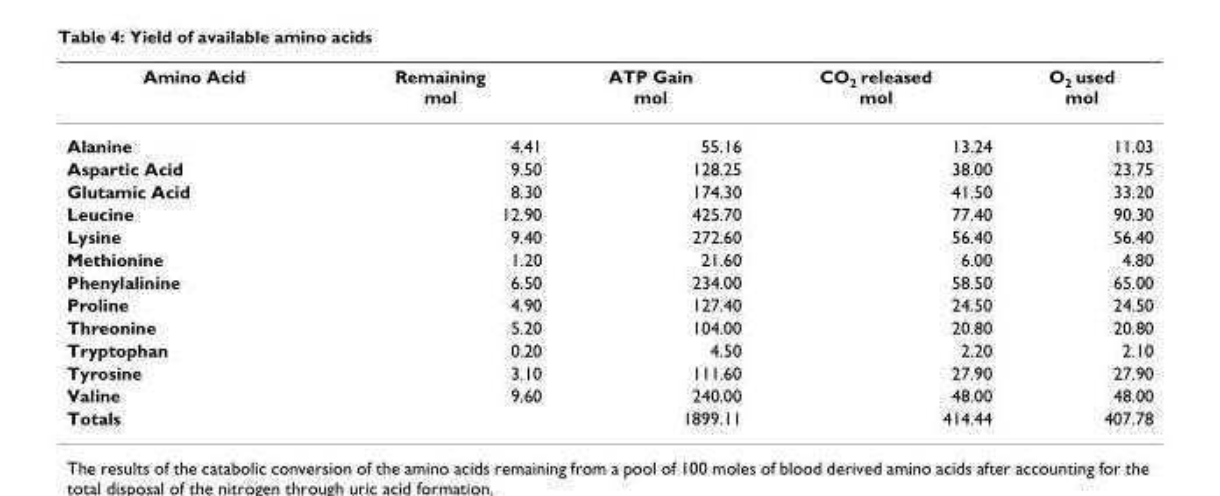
<table><thead><tr><td>Amino Acid</td><td>Remaining mol</td><td>ATP Gain mol</td><td>CO<sub>2</sub> released mol</td><td>O<sub>2</sub> used mol</td></tr></thead><tbody><tr><td>Alanine</td><td>4.41</td><td>55.16</td><td>13.24</td><td>11.03</td></tr><tr><td>Aspartic Acid</td><td>9.50</td><td>128.25</td><td>38.00</td><td>23.75</td></tr><tr><td>Glutamic Acid</td><td>8.30</td><td>174.30</td><td>41.50</td><td>33.20</td></tr><tr><td>Leucine</td><td>12.90</td><td>425.70</td><td>77.40</td><td>90.30</td></tr><tr><td>Lysine</td><td>9.40</td><td>272.60</td><td>56.40</td><td>56.40</td></tr><tr><td>Methionine</td><td>1.20</td><td>21.60</td><td>6.00</td><td>4.80</td></tr><tr><td>Phenylalinine</td><td>6.50</td><td>234.00</td><td>58.50</td><td>65.00</td></tr><tr><td>Proline</td><td>4.90</td><td>127.40</td><td>24.50</td><td>24.50</td></tr><tr><td>Threonine</td><td>5.20</td><td>104.00</td><td>20.80</td><td>20.80</td></tr><tr><td>Tryptophan</td><td>0.20</td><td>4.50</td><td>2.20</td><td>2.10</td></tr><tr><td>Tyrosine</td><td>3.10</td><td>111.60</td><td>27.90</td><td>27.90</td></tr><tr><td>Valine</td><td>9.60</td><td>240.00</td><td>48.00</td><td>48.00</td></tr><tr><td colspan="2">Totals</td><td>1899.11</td><td>414.44</td><td>407.78</td></tr></tbody></table>